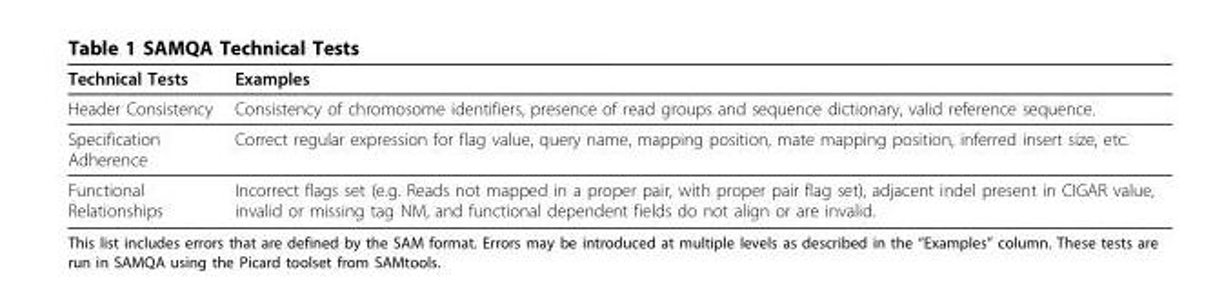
<table><thead><tr><td>Technical Tests</td><td>Examples</td></tr></thead><tbody><tr><td>Header Consistency</td><td>Consistency of chromosome identifiers, presence of read groups and sequence dictionary, valid reference sequence.</td></tr><tr><td>Specification Adherence</td><td>Correct regular expression for flag value, query name, mapping position, mate mapping position, inferred insert size, etc.</td></tr><tr><td>Functional Relationships</td><td>Incorrect flags set (e.g. Reads not mapped in a proper pair, with proper pair flag set), adjacent indel present in CIGAR value, invalid or missing tag NM, and functional dependent fields do not align or are invalid.</td></tr></tbody></table>